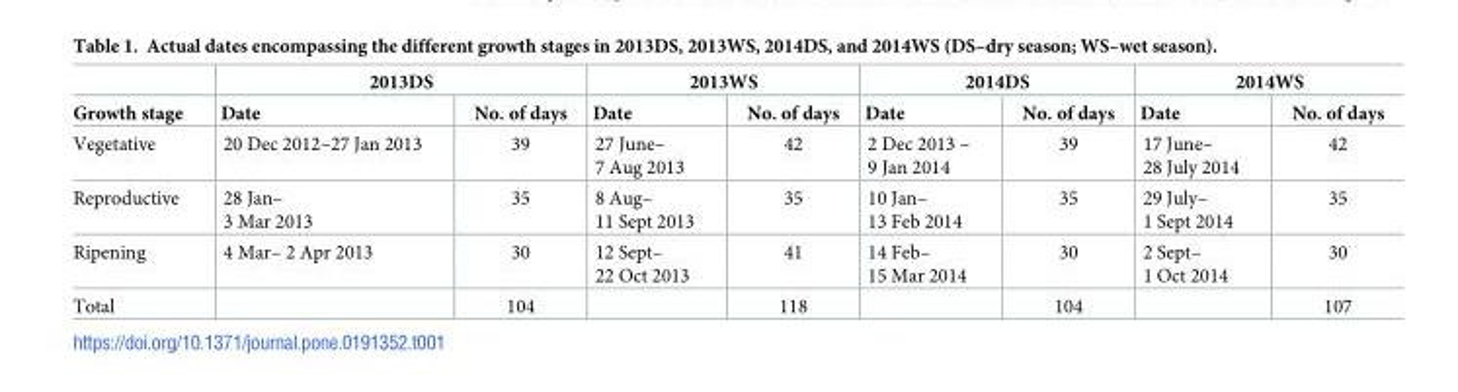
<table><thead><tr><td rowspan="2">Growth stage</td><td colspan="2">2013DS</td><td colspan="2">2013WS</td><td colspan="2">2014DS</td><td colspan="2">2014WS</td></tr><tr><td>Date</td><td>No. of days</td><td>Date</td><td>No. of days</td><td>Date</td><td>No. of days</td><td>Date</td><td>No. of days</td></tr></thead><tbody><tr><td>Vegetative</td><td>20 Dec 2012–27 Jan 2013</td><td>39</td><td>27 June– 7 Aug 2013</td><td>42</td><td>2 Dec 2013 – 9 Jan 2014</td><td>39</td><td>17 June– 28 July 2014</td><td>42</td></tr><tr><td>Reproductive</td><td>28 Jan– 3 Mar 2013</td><td>35</td><td>8 Aug– 11 Sept 2013</td><td>35</td><td>10 Jan– 13 Feb 2014</td><td>35</td><td>29 July– 1 Sept 2014</td><td>35</td></tr><tr><td>Ripening</td><td>4 Mar– 2 Apr 2013</td><td>30</td><td>12 Sept– 22 Oct 2013</td><td>41</td><td>14 Feb– 15 Mar 2014</td><td>30</td><td>2 Sept– 1 Oct 2014</td><td>30</td></tr><tr><td>Total</td><td></td><td>104</td><td></td><td>118</td><td></td><td>104</td><td></td><td>107</td></tr></tbody></table>